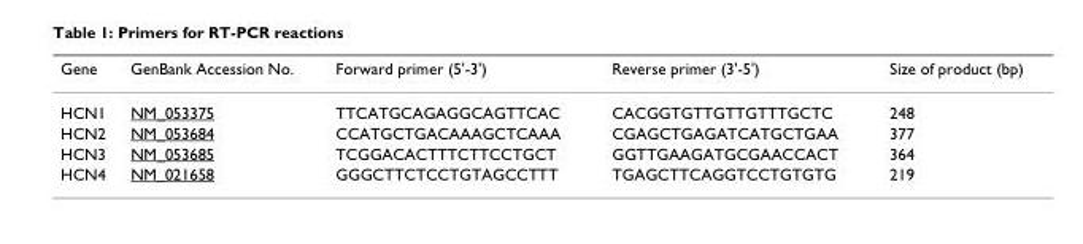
<table><thead><tr><td>Gene</td><td>GenBank Accession No.</td><td>Forward primer (5&#x27;-3&#x27;)</td><td>Reverse primer (3&#x27;-5&#x27;)</td><td>Size of product (bp)</td></tr></thead><tbody><tr><td>HCN1</td><td>NM_053375</td><td>TTCATGCAGAGGCAGTTCAC</td><td>CACGGTGTTGTTGTTTGCTC</td><td>248</td></tr><tr><td>HCN2</td><td>NM_053684</td><td>CCATGCTGACAAAGCTCAAA</td><td>CGAGCTGAGATCATGCTGAA</td><td>377</td></tr><tr><td>HCN3</td><td>NM_053685</td><td>TCGGACACTTTCTTCCTGCT</td><td>GGTTGAAGATGCGAACCACT</td><td>364</td></tr><tr><td>HCN4</td><td>NM_021658</td><td>GGGCTTCTCCTGTAGCCTTT</td><td>TGAGCTTCAGGTCCTGTGTG</td><td>219</td></tr></tbody></table>